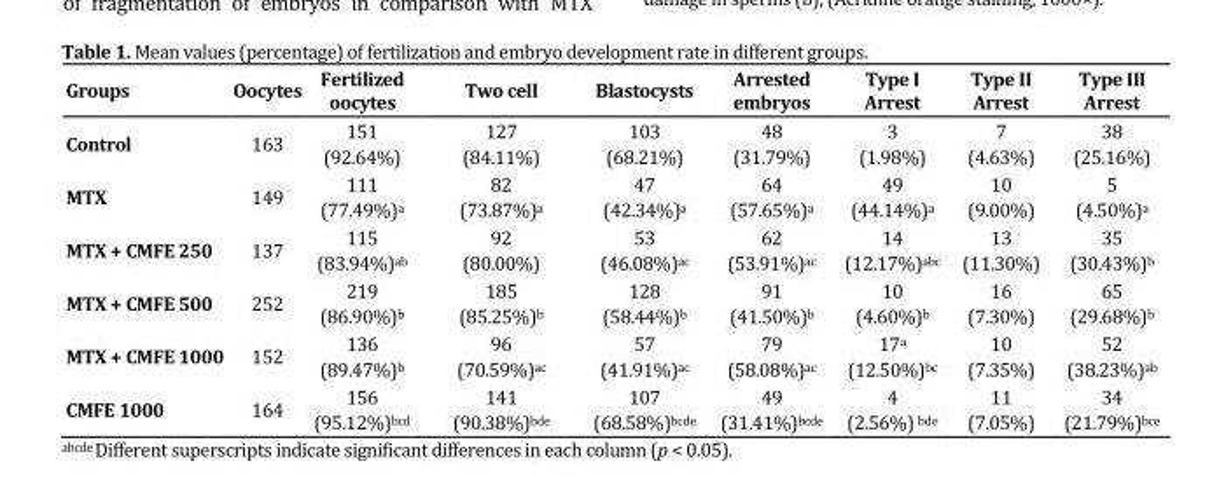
<table><thead><tr><td>Groups</td><td>Oocytes</td><td>Fertilized oocytes</td><td>Two cell</td><td>Blastocysts</td><td>Arrested embryos</td><td>Type I Arrest</td><td>Type II Arrest</td><td>Type III Arrest</td></tr></thead><tbody><tr><td>Control</td><td>163</td><td>151 (92.64%)</td><td>127 (84.11%)</td><td>103 (68.21%)</td><td>48 (31.79%)</td><td>3 (1.98%)</td><td>7 (4.63%)</td><td>38 (25.16%)</td></tr><tr><td>MTX</td><td>149</td><td>111 (77.49%)<sup>a</sup></td><td>82 (73.87%)<sup>a</sup></td><td>47 (42.34%)<sup>a</sup></td><td>64 (57.65%)<sup>a</sup></td><td>49 (44.14%)<sup>a</sup></td><td>10 (9.00%)</td><td>5 (4.50%)<sup>a</sup></td></tr><tr><td>MTX + CMFE 250</td><td>137</td><td>115 (83.94%)<sup>ab</sup></td><td>92 (80.00%)</td><td>53 (46.08%)<sup>ac</sup></td><td>62 (53.91%)<sup>ac</sup></td><td>14 (12.17%)abc</td><td>13 (11.30%)</td><td>35 (30.43%)<sup>b</sup></td></tr><tr><td>MTX + CMFE 500</td><td>252</td><td>219 (86.90%)<sup>b</sup></td><td>185 (85.25%)<sup>b</sup></td><td>128 (58.44%)<sup>b</sup></td><td>91 (41.50%)<sup>b</sup></td><td>10 (4.60%)<sup>b</sup></td><td>16 (7.30%)</td><td>65 (29.68%)<sup>b</sup></td></tr><tr><td>MTX + CMFE 1000</td><td>152</td><td>136 (89.47%)<sup>b</sup></td><td>96 (70.59%)<sup>ac</sup></td><td>57 (41.91%)<sup>ac</sup></td><td>79 (58.08%)<sup>ac</sup></td><td>17a (12.50%)<sup>bc</sup></td><td>10 (7.35%)</td><td>52 (38.23%)<sup>ab</sup></td></tr><tr><td>CMFE 1000</td><td>164</td><td>156 (95.12%)bcd</td><td>141 (90.38%)bde</td><td>107 (68.58%)bcde</td><td>49 (31.41%)bcde</td><td>4 (2.56%) bde</td><td>11 (7.05%)</td><td>34 (21.79%)bce</td></tr></tbody></table>